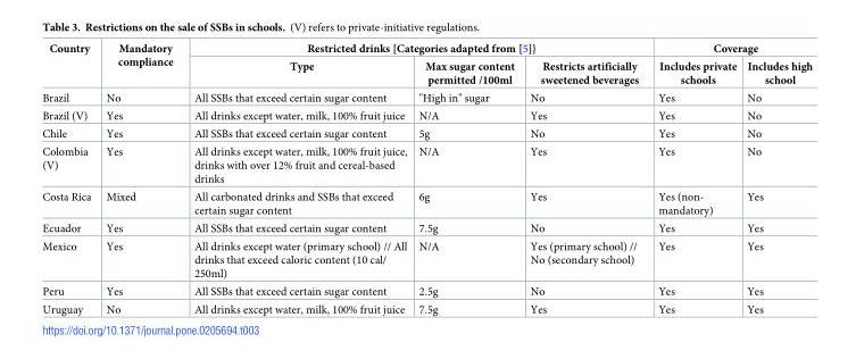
<table><thead><tr><td rowspan="2">Country</td><td rowspan="2">Mandatory compliance</td><td colspan="3">Restricted drinks [Categories adapted from [5]}</td><td colspan="2">Coverage</td></tr><tr><td>Type</td><td>Max sugar content permitted /100ml</td><td>Restricts artificially sweetened beverages</td><td>Includes private schools</td><td>Includes high school</td></tr></thead><tbody><tr><td>Brazil</td><td>No</td><td>All SSBs that exceed certain sugar content</td><td>&quot;High in&quot; sugar</td><td>No</td><td>Yes</td><td>No</td></tr><tr><td>Brazil (V)</td><td>Yes</td><td>All drinks except water, milk, 100% fruit juice</td><td>N/A</td><td>Yes</td><td>Yes</td><td>No</td></tr><tr><td>Chile</td><td>Yes</td><td>All SSBs that exceed certain sugar content</td><td>5g</td><td>No</td><td>Yes</td><td>No</td></tr><tr><td>Colombia (V)</td><td>Yes</td><td>All drinks except water, milk, 100% fruit juice, drinks with over 12% fruit and cereal-based drinks</td><td>N/A</td><td>Yes</td><td>Yes</td><td>No</td></tr><tr><td>Costa Rica</td><td>Mixed</td><td>All carbonated drinks and SSBs that exceed certain sugar content</td><td>6g</td><td>Yes</td><td>Yes (non- mandatory)</td><td>Yes</td></tr><tr><td>Ecuador</td><td>Yes</td><td>All SSBs that exceed certain sugar content</td><td>7.5g</td><td>No</td><td>Yes</td><td>Yes</td></tr><tr><td>Mexico</td><td>Yes</td><td>All drinks except water (primary school) // All drinks that exceed caloric content (10 cal/ 250ml)</td><td>N/A</td><td>Yes (primary school) // No (secondary school)</td><td>Yes</td><td>Yes</td></tr><tr><td>Peru</td><td>Yes</td><td>All SSBs that exceed certain sugar content</td><td>2.5g</td><td>No</td><td>Yes</td><td>Yes</td></tr><tr><td>Uruguay</td><td>No</td><td>All drinks except water, milk, 100% fruit juice</td><td>7.5g</td><td>Yes</td><td>Yes</td><td>Yes</td></tr></tbody></table>